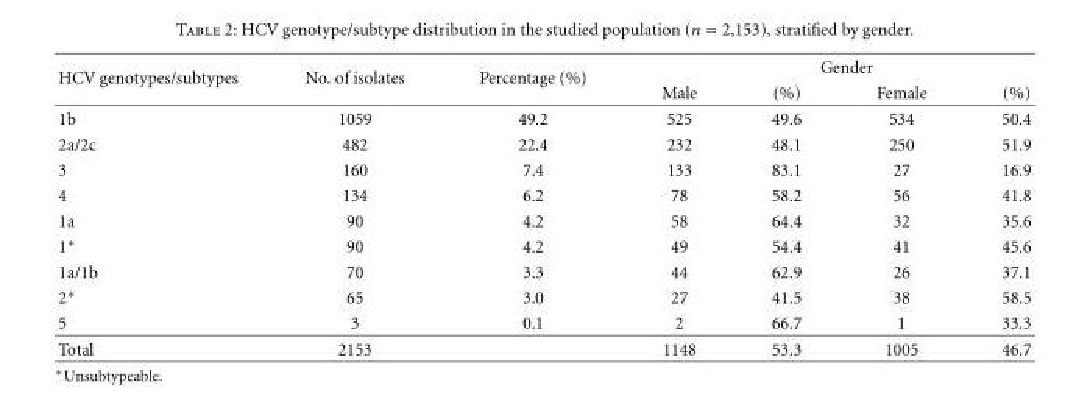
<table><thead><tr><td rowspan="2">HCV genotypes/subtypes</td><td rowspan="2">No. of isolates</td><td rowspan="2">Percentage (%)</td><td colspan="4">Gender</td></tr><tr><td>Male</td><td>(%)</td><td>Female</td><td>(%)</td></tr></thead><tbody><tr><td>1b</td><td>1059</td><td>49.2</td><td>525</td><td>49.6</td><td>534</td><td>50.4</td></tr><tr><td>2a/2c</td><td>482</td><td>22.4</td><td>232</td><td>48.1</td><td>250</td><td>51.9</td></tr><tr><td>3</td><td>160</td><td>7.4</td><td>133</td><td>83.1</td><td>27</td><td>16.9</td></tr><tr><td>4</td><td>134</td><td>6.2</td><td>78</td><td>58.2</td><td>56</td><td>41.8</td></tr><tr><td>1a</td><td>90</td><td>4.2</td><td>58</td><td>64.4</td><td>32</td><td>35.6</td></tr><tr><td>1∗</td><td>90</td><td>4.2</td><td>49</td><td>54.4</td><td>41</td><td>45.6</td></tr><tr><td>1a/1b</td><td>70</td><td>3.3</td><td>44</td><td>62.9</td><td>26</td><td>37.1</td></tr><tr><td>2∗</td><td>65</td><td>3.0</td><td>27</td><td>41.5</td><td>38</td><td>58.5</td></tr><tr><td>5</td><td>3</td><td>0.1</td><td>2</td><td>66.7</td><td>1</td><td>33.3</td></tr><tr><td>Total</td><td>2153</td><td></td><td>1148</td><td>53.3</td><td>1005</td><td>46.7</td></tr></tbody></table>